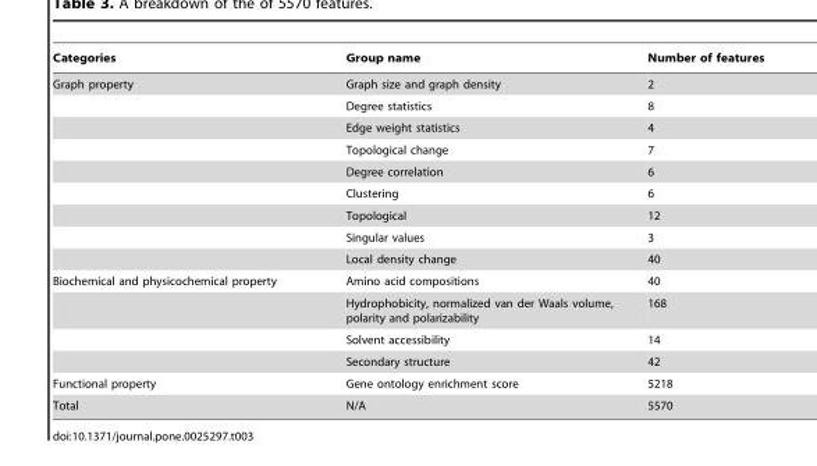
<table><thead><tr><td>Categories</td><td>Group name</td><td>Number of features</td></tr></thead><tbody><tr><td rowspan="9">Graph property</td><td>Graph size and graph density</td><td>2</td></tr><tr><td>Degree statistics</td><td>8</td></tr><tr><td>Edge weight statistics</td><td>4</td></tr><tr><td>Topological change</td><td>7</td></tr><tr><td>Degree correlation</td><td>6</td></tr><tr><td>Clustering</td><td>6</td></tr><tr><td>Topological</td><td>12</td></tr><tr><td>Singular values</td><td>3</td></tr><tr><td>Local density change</td><td>40</td></tr><tr><td rowspan="4">Biochemical and physicochemical property</td><td>Amino acid compositions</td><td>40</td></tr><tr><td>Hydrophobicity, normalized van der Waals volume, polarity and polarizability</td><td>168</td></tr><tr><td>Solvent accessibility</td><td>14</td></tr><tr><td>Secondary structure</td><td>42</td></tr><tr><td>Functional property</td><td>Gene ontology enrichment score</td><td>5218</td></tr><tr><td>Total</td><td>N/A</td><td>5570</td></tr></tbody></table>